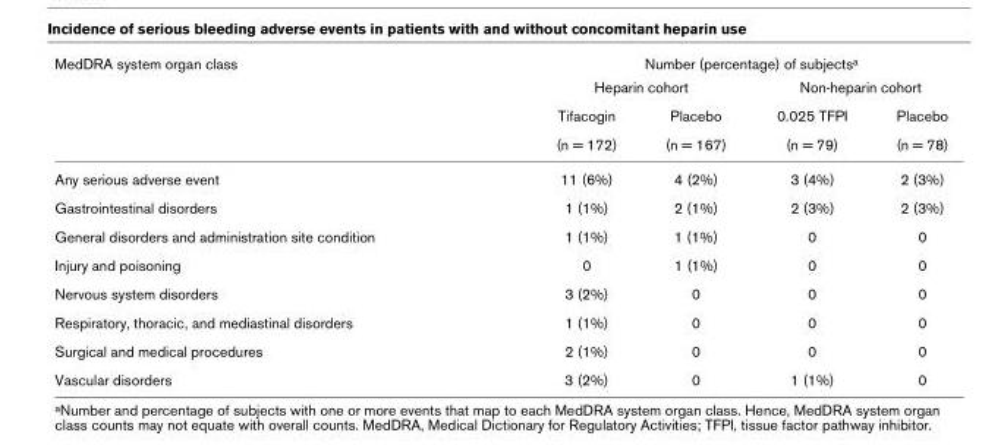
<table><thead><tr><td rowspan="4">MedDRA system organ class</td><td colspan="4">Number (percentage) of subjects<sup>a</sup></td></tr><tr><td colspan="2">Heparin cohort</td><td colspan="2">Non-heparin cohort</td></tr><tr><td rowspan="2">Tifacogin (n = 172)</td><td rowspan="2">Placebo (n = 167)</td><td rowspan="2">0.025 TFPI (n = 79)</td><td rowspan="2">Placebo (n = 78)</td></tr><tr></tr></thead><tbody><tr><td>Any serious adverse event</td><td>11 (6%)</td><td>4 (2%)</td><td>3 (4%)</td><td>2 (3%)</td></tr><tr><td>Gastrointestinal disorders</td><td>1 (1%)</td><td>2 (1%)</td><td>2 (3%)</td><td>2 (3%)</td></tr><tr><td>General disorders and administration site condition</td><td>1 (1%)</td><td>1 (1%)</td><td>0</td><td>0</td></tr><tr><td>Injury and poisoning</td><td>0</td><td>1 (1%)</td><td>0</td><td>0</td></tr><tr><td>Nervous system disorders</td><td>3 (2%)</td><td>0</td><td>0</td><td>0</td></tr><tr><td>Respiratory, thoracic, and mediastinal disorders</td><td>1 (1%)</td><td>0</td><td>0</td><td>0</td></tr><tr><td>Surgical and medical procedures</td><td>2 (1%)</td><td>0</td><td>0</td><td>0</td></tr><tr><td>Vascular disorders</td><td>3 (2%)</td><td>0</td><td>1 (1%)</td><td>0</td></tr></tbody></table>